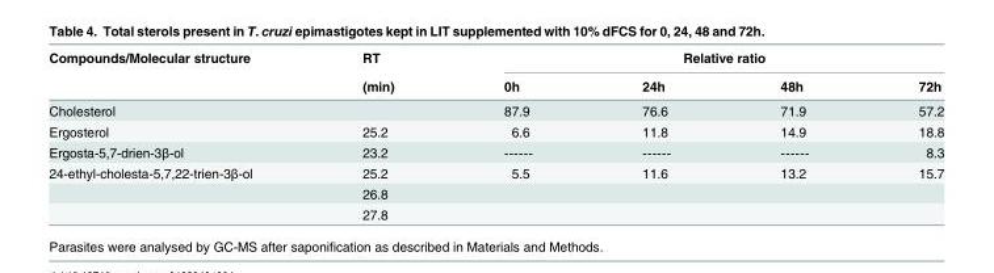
<table><thead><tr><td rowspan="2">Compounds/Molecular structure</td><td rowspan="2">RT (min)</td><td colspan="4">Relative ratio</td></tr><tr><td>0h</td><td>24h</td><td>48h</td><td>72h</td></tr></thead><tbody><tr><td>Cholesterol</td><td></td><td>87.9</td><td>76.6</td><td>71.9</td><td>57.2</td></tr><tr><td>Ergosterol</td><td>25.2</td><td>6.6</td><td>11.8</td><td>14.9</td><td>18.8</td></tr><tr><td>Ergosta-5,7-drien-3β-ol</td><td>23.2</td><td>------</td><td>------</td><td>------</td><td>8.3</td></tr><tr><td rowspan="3">24-ethyl-cholesta-5,7,22-trien-3β-ol</td><td>25.2</td><td>5.5</td><td>11.6</td><td>13.2</td><td>15.7</td></tr><tr><td>26.8</td><td></td><td></td><td></td><td></td></tr><tr><td>27.8</td><td></td><td></td><td></td><td></td></tr></tbody></table>